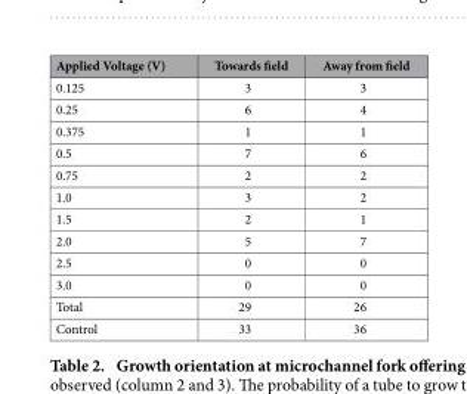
<table><tbody><tr><td>Applied Voltage (V)</td><td>Towards field</td><td>Away from field</td></tr><tr><td>0.125</td><td>3</td><td>3</td></tr><tr><td>0.25</td><td>6</td><td>4</td></tr><tr><td>0.375</td><td>1</td><td>1</td></tr><tr><td>0.5</td><td>7</td><td>6</td></tr><tr><td>0.75</td><td>2</td><td>2</td></tr><tr><td>1.0</td><td>3</td><td>2</td></tr><tr><td>1.5</td><td>2</td><td>1</td></tr><tr><td>2.0</td><td>5</td><td>7</td></tr><tr><td>2.5</td><td>0</td><td>0</td></tr><tr><td>3.0</td><td>0</td><td>0</td></tr><tr><td>Total</td><td>29</td><td>26</td></tr><tr><td>Control</td><td>33</td><td>36</td></tr></tbody></table>